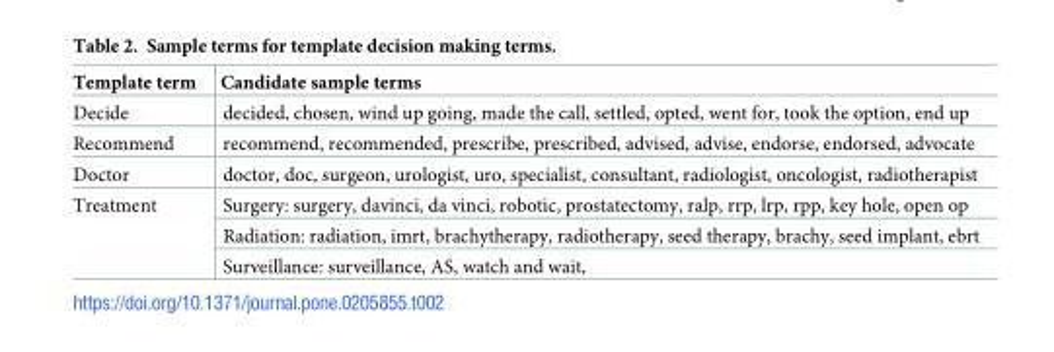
<table><thead><tr><td>Template term</td><td>Candidate sample terms</td></tr></thead><tbody><tr><td>Decide</td><td>decided, chosen, wind up going, made the call, settled, opted, went for, took the option, end up</td></tr><tr><td>Recommend</td><td>recommend, recommended, prescribe, prescribed, advised, advise, endorse, endorsed, advocate</td></tr><tr><td>Doctor</td><td>doctor, doc, surgeon, urologist, uro, specialist, consultant, radiologist, oncologist, radiotherapist</td></tr><tr><td rowspan="3">Treatment</td><td>Surgery: surgery, davinci, da vinci, robotic, prostatectomy, ralp, rrp, lrp, rpp, key hole, open op</td></tr><tr><td>Radiation: radiation, imrt, brachytherapy, radiotherapy, seed therapy, brachy, seed implant, ebrt</td></tr><tr><td>Surveillance: surveillance, AS, watch and wait,</td></tr></tbody></table>